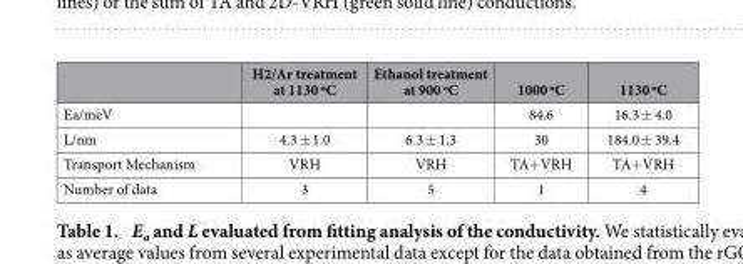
<table><thead><tr><td></td><td>H2/Ar treatment at 1130 ºC</td><td>Ethanol treatment at 900 ºC</td><td>1000 ºC</td><td>1130 ºC</td></tr></thead><tbody><tr><td>Ea/meV</td><td></td><td></td><td>84.6</td><td>16.3 ± 4.0</td></tr><tr><td>L/nm</td><td>4.3 ± 1.0</td><td>6.3 ± 1.3</td><td>30</td><td>184.0 ± 39.4</td></tr><tr><td>Transport Mechanism</td><td>VRH</td><td>VRH</td><td>TA+ VRH</td><td>TA+ VRH</td></tr><tr><td>Number of data</td><td>3</td><td>5</td><td>1</td><td>4</td></tr></tbody></table>